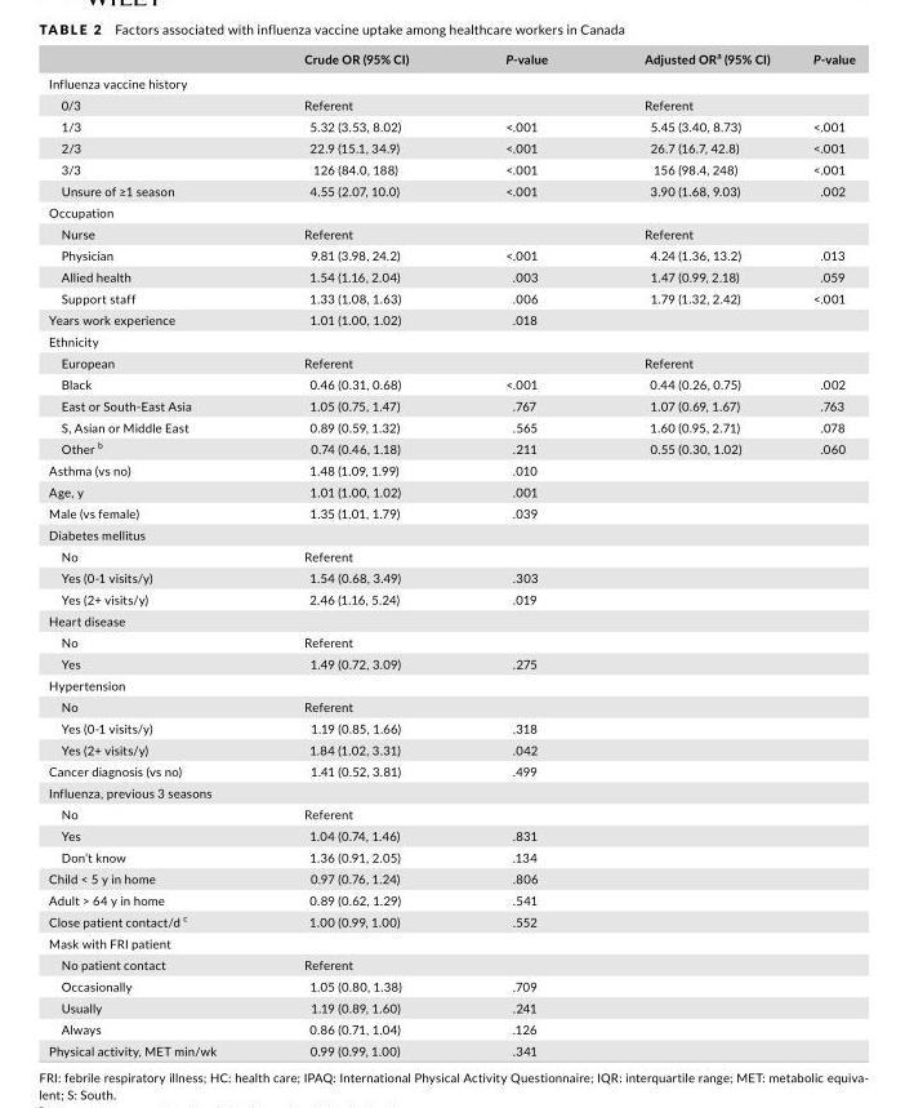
<table><thead><tr><td></td><td>Crude OR (95% CI)</td><td>P- value</td><td>Adjusted OR<sup>a</sup> (95% CI)</td><td>P- value</td></tr></thead><tbody><tr><td colspan="5">Influenza vaccine history</td></tr><tr><td>0/3</td><td>Referent</td><td></td><td>Referent</td><td></td></tr><tr><td>1/3</td><td>5.32 (3.53, 8.02)</td><td>&lt;.001</td><td>5.45 (3.40, 8.73)</td><td>&lt;.001</td></tr><tr><td>2/3</td><td>22.9 (15.1, 34.9)</td><td>&lt;.001</td><td>26.7 (16.7, 42.8)</td><td>&lt;.001</td></tr><tr><td>3/3</td><td>126 (84.0, 188)</td><td>&lt;.001</td><td>156 (98.4, 248)</td><td>&lt;.001</td></tr><tr><td>Unsure of ≥1 season</td><td>4.55 (2.07, 10.0)</td><td>&lt;.001</td><td>3.90 (1.68, 9.03)</td><td>.002</td></tr><tr><td colspan="5">Occupation</td></tr><tr><td>Nurse</td><td>Referent</td><td></td><td>Referent</td><td></td></tr><tr><td>Physician</td><td>9.81 (3.98, 24.2)</td><td>&lt;.001</td><td>4.24 (1.36, 13.2)</td><td>.013</td></tr><tr><td>Allied health</td><td>1.54 (1.16, 2.04)</td><td>.003</td><td>1.47 (0.99, 2.18)</td><td>.059</td></tr><tr><td>Support staff</td><td>1.33 (1.08, 1.63)</td><td>.006</td><td>1.79 (1.32, 2.42)</td><td>&lt;.001</td></tr><tr><td>Years work experience</td><td>1.01 (1.00, 1.02)</td><td>.018</td><td></td><td></td></tr><tr><td colspan="5">Ethnicity</td></tr><tr><td>European</td><td>Referent</td><td></td><td>Referent</td><td></td></tr><tr><td>Black</td><td>0.46 (0.31, 0.68)</td><td>&lt;.001</td><td>0.44 (0.26, 0.75)</td><td>.002</td></tr><tr><td>East or South- East Asia</td><td>1.05 (0.75, 1.47)</td><td>.767</td><td>1.07 (0.69, 1.67)</td><td>.763</td></tr><tr><td>S, Asian or Middle East</td><td>0.89 (0.59, 1.32)</td><td>.565</td><td>1.60 (0.95, 2.71)</td><td>.078</td></tr><tr><td>Other b</td><td>0.74 (0.46, 1.18)</td><td>.211</td><td>0.55 (0.30, 1.02)</td><td>.060</td></tr><tr><td>Asthma (vs no)</td><td>1.48 (1.09, 1.99)</td><td>.010</td><td></td><td></td></tr><tr><td>Age, y</td><td>1.01 (1.00, 1.02)</td><td>.001</td><td></td><td></td></tr><tr><td>Male (vs female)</td><td>1.35 (1.01, 1.79)</td><td>.039</td><td></td><td></td></tr><tr><td colspan="5">Diabetes mellitus</td></tr><tr><td>No</td><td>Referent</td><td></td><td></td><td></td></tr><tr><td>Yes (0- 1 visits/y)</td><td>1.54 (0.68, 3.49)</td><td>.303</td><td></td><td></td></tr><tr><td>Yes (2+ visits/y)</td><td>2.46 (1.16, 5.24)</td><td>.019</td><td></td><td></td></tr><tr><td colspan="5">Heart disease</td></tr><tr><td>No</td><td>Referent</td><td></td><td></td><td></td></tr><tr><td>Yes</td><td>1.49 (0.72, 3.09)</td><td>.275</td><td></td><td></td></tr><tr><td colspan="5">Hypertension</td></tr><tr><td>No</td><td>Referent</td><td></td><td></td><td></td></tr><tr><td>Yes (0- 1 visits/y)</td><td>1.19 (0.85, 1.66)</td><td>.318</td><td></td><td></td></tr><tr><td>Yes (2+ visits/y)</td><td>1.84 (1.02, 3.31)</td><td>.042</td><td></td><td></td></tr><tr><td>Cancer diagnosis (vs no)</td><td>1.41 (0.52, 3.81)</td><td>.499</td><td></td><td></td></tr><tr><td colspan="5">Influenza, previous 3 seasons</td></tr><tr><td>No</td><td>Referent</td><td></td><td></td><td></td></tr><tr><td>Yes</td><td>1.04 (0.74, 1.46)</td><td>.831</td><td></td><td></td></tr><tr><td>Don’t know</td><td>1.36 (0.91, 2.05)</td><td>.134</td><td></td><td></td></tr><tr><td>Child &lt; 5 y in home</td><td>0.97 (0.76, 1.24)</td><td>.806</td><td></td><td></td></tr><tr><td>Adult &gt; 64 y in home</td><td>0.89 (0.62, 1.29)</td><td>.541</td><td></td><td></td></tr><tr><td>Close patient contact/d c</td><td>1.00 (0.99, 1.00)</td><td>.552</td><td></td><td></td></tr><tr><td colspan="5">Mask with FRI patient</td></tr><tr><td>No patient contact</td><td>Referent</td><td></td><td></td><td></td></tr><tr><td>Occasionally</td><td>1.05 (0.80, 1.38)</td><td>.709</td><td></td><td></td></tr><tr><td>Usually</td><td>1.19 (0.89, 1.60)</td><td>.241</td><td></td><td></td></tr><tr><td>Always</td><td>0.86 (0.71, 1.04)</td><td>.126</td><td></td><td></td></tr><tr><td>Physical activity, MET min/wk</td><td>0.99 (0.99, 1.00)</td><td>.341</td><td></td><td></td></tr></tbody></table>